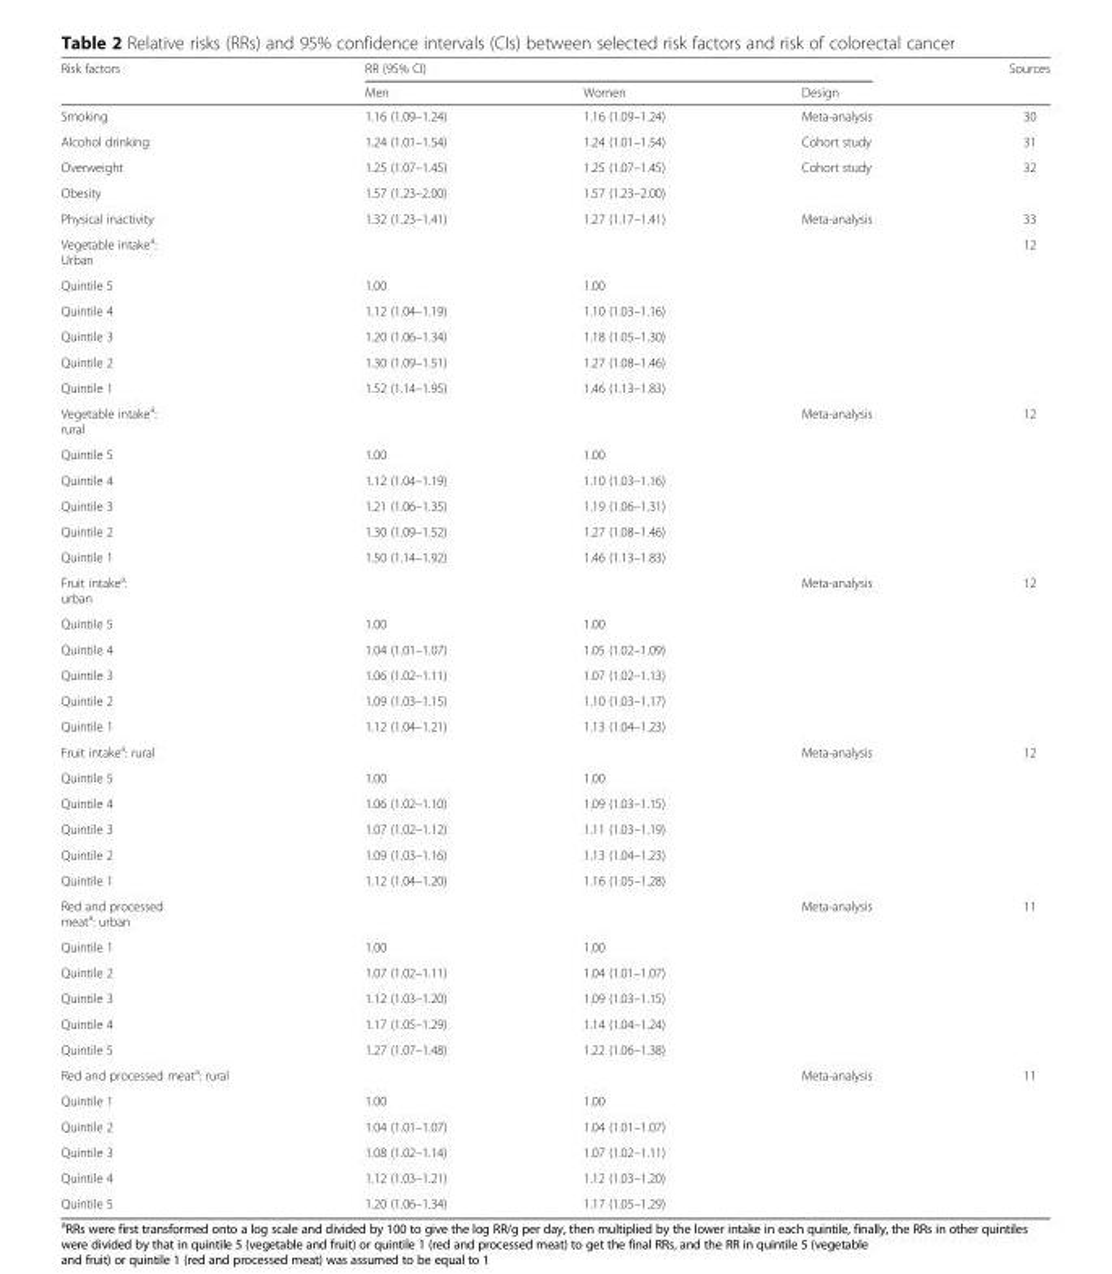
<table><thead><tr><td rowspan="2">Risk factors</td><td colspan="3">RR (95% CI)</td><td rowspan="2">Sources</td></tr><tr><td>Men</td><td>Women</td><td>Design</td></tr></thead><tbody><tr><td>Smoking</td><td>1.16 (1.09–1.24)</td><td>1.16 (1.09–1.24)</td><td>Meta-analysis</td><td>30</td></tr><tr><td>Alcohol drinking</td><td>1.24 (1.01–1.54)</td><td>1.24 (1.01–1.54)</td><td>Cohort study</td><td>31</td></tr><tr><td>Overweight</td><td>1.25 (1.07–1.45)</td><td>1.25 (1.07–1.45)</td><td>Cohort study</td><td>32</td></tr><tr><td>Obesity</td><td>1.57 (1.23–2.00)</td><td>1.57 (1.23–2.00)</td><td></td><td></td></tr><tr><td>Physical inactivity</td><td>1.32 (1.23–1.41)</td><td>1.27 (1.17–1.41)</td><td>Meta-analysis</td><td>33</td></tr><tr><td>Vegetable intake<sup>a</sup>: Urban</td><td></td><td></td><td rowspan="6"></td><td>12</td></tr><tr><td>Quintile 5</td><td>1.00</td><td>1.00</td><td></td></tr><tr><td>Quintile 4</td><td>1.12 (1.04–1.19)</td><td>1.10 (1.03–1.16)</td><td></td></tr><tr><td>Quintile 3</td><td>1.20 (1.06–1.34)</td><td>1.18 (1.05–1.30)</td><td></td></tr><tr><td>Quintile 2</td><td>1.30 (1.09–1.51)</td><td>1.27 (1.08–1.46)</td><td></td></tr><tr><td>Quintile 1</td><td>1.52 (1.14–1.95)</td><td>1.46 (1.13–1.83)</td><td></td></tr><tr><td>Vegetable intake<sup>a</sup>: rural</td><td></td><td></td><td rowspan="6">Meta-analysis</td><td>12</td></tr><tr><td>Quintile 5</td><td>1.00</td><td>1.00</td><td></td></tr><tr><td>Quintile 4</td><td>1.12 (1.04–1.19)</td><td>1.10 (1.03–1.16)</td><td></td></tr><tr><td>Quintile 3</td><td>1.21 (1.06–1.35)</td><td>1.19 (1.06–1.31)</td><td></td></tr><tr><td>Quintile 2</td><td>1.30 (1.09–1.52)</td><td>1.27 (1.08–1.46)</td><td></td></tr><tr><td>Quintile 1</td><td>1.50 (1.14–1.92)</td><td>1.46 (1.13–1.83)</td><td></td></tr><tr><td>Fruit intake<sup>a</sup>: urban</td><td></td><td></td><td rowspan="6">Meta-analysis</td><td>12</td></tr><tr><td>Quintile 5</td><td>1.00</td><td>1.00</td><td></td></tr><tr><td>Quintile 4</td><td>1.04 (1.01–1.07)</td><td>1.05 (1.02–1.09)</td><td></td></tr><tr><td>Quintile 3</td><td>1.06 (1.02–1.11)</td><td>1.07 (1.02–1.13)</td><td></td></tr><tr><td>Quintile 2</td><td>1.09 (1.03–1.15)</td><td>1.10 (1.03–1.17)</td><td></td></tr><tr><td>Quintile 1</td><td>1.12 (1.04–1.21)</td><td>1.13 (1.04–1.23)</td><td></td></tr><tr><td>Fruit intake<sup>a</sup>: rural</td><td></td><td></td><td rowspan="6">Meta-analysis</td><td>12</td></tr><tr><td>Quintile 5</td><td>1.00</td><td>1.00</td><td></td></tr><tr><td>Quintile 4</td><td>1.06 (1.02–1.10)</td><td>1.09 (1.03–1.15)</td><td></td></tr><tr><td>Quintile 3</td><td>1.07 (1.02–1.12)</td><td>1.11 (1.03–1.19)</td><td></td></tr><tr><td>Quintile 2</td><td>1.09 (1.03–1.16)</td><td>1.13 (1.04–1.23)</td><td></td></tr><tr><td>Quintile 1</td><td>1.12 (1.04–1.20)</td><td>1.16 (1.05–1.28)</td><td></td></tr><tr><td>Red and processed meat<sup>a</sup>: urban</td><td></td><td></td><td rowspan="6">Meta-analysis</td><td>11</td></tr><tr><td>Quintile 1</td><td>1.00</td><td>1.00</td><td></td></tr><tr><td>Quintile 2</td><td>1.07 (1.02–1.11)</td><td>1.04 (1.01–1.07)</td><td></td></tr><tr><td>Quintile 3</td><td>1.12 (1.03–1.20)</td><td>1.09 (1.03–1.15)</td><td></td></tr><tr><td>Quintile 4</td><td>1.17 (1.05–1.29)</td><td>1.14 (1.04–1.24)</td><td></td></tr><tr><td>Quintile 5</td><td>1.27 (1.07–1.48)</td><td>1.22 (1.06–1.38)</td><td></td></tr><tr><td>Red and processed meat<sup>a</sup>: rural</td><td></td><td></td><td rowspan="6">Meta-analysis</td><td>11</td></tr><tr><td>Quintile 1</td><td>1.00</td><td>1.00</td><td></td></tr><tr><td>Quintile 2</td><td>1.04 (1.01–1.07)</td><td>1.04 (1.01–1.07)</td><td></td></tr><tr><td>Quintile 3</td><td>1.08 (1.02–1.14)</td><td>1.07 (1.02–1.11)</td><td></td></tr><tr><td>Quintile 4</td><td>1.12 (1.03–1.21)</td><td>1.12 (1.03–1.20)</td><td></td></tr><tr><td>Quintile 5</td><td>1.20 (1.06–1.34)</td><td>1.17 (1.05–1.29)</td><td></td></tr></tbody></table>